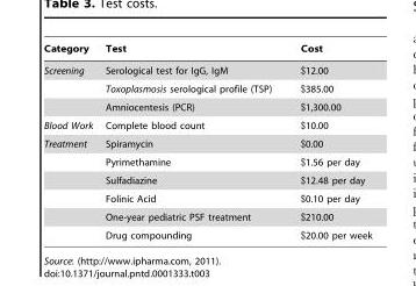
<table><thead><tr><td>Category</td><td>Test</td><td>Cost</td></tr></thead><tbody><tr><td rowspan="3">Screening</td><td>Serological test for IgG, IgM</td><td>$12.00</td></tr><tr><td>Toxoplasmosis serological profile (TSP)</td><td>$385.00</td></tr><tr><td>Amniocentesis (PCR)</td><td>$1,300.00</td></tr><tr><td>Blood Work</td><td>Complete blood count</td><td>$10.00</td></tr><tr><td rowspan="6">Treatment</td><td>Spiramycin</td><td>$0.00</td></tr><tr><td>Pyrimethamine</td><td>$1.56 per day</td></tr><tr><td>Sulfadiazine</td><td>$12.48 per day</td></tr><tr><td>Folinic Acid</td><td>$0.10 per day</td></tr><tr><td>One-year pediatric PSF treatment</td><td>$210.00</td></tr><tr><td>Drug compounding</td><td>$20.00 per week</td></tr></tbody></table>